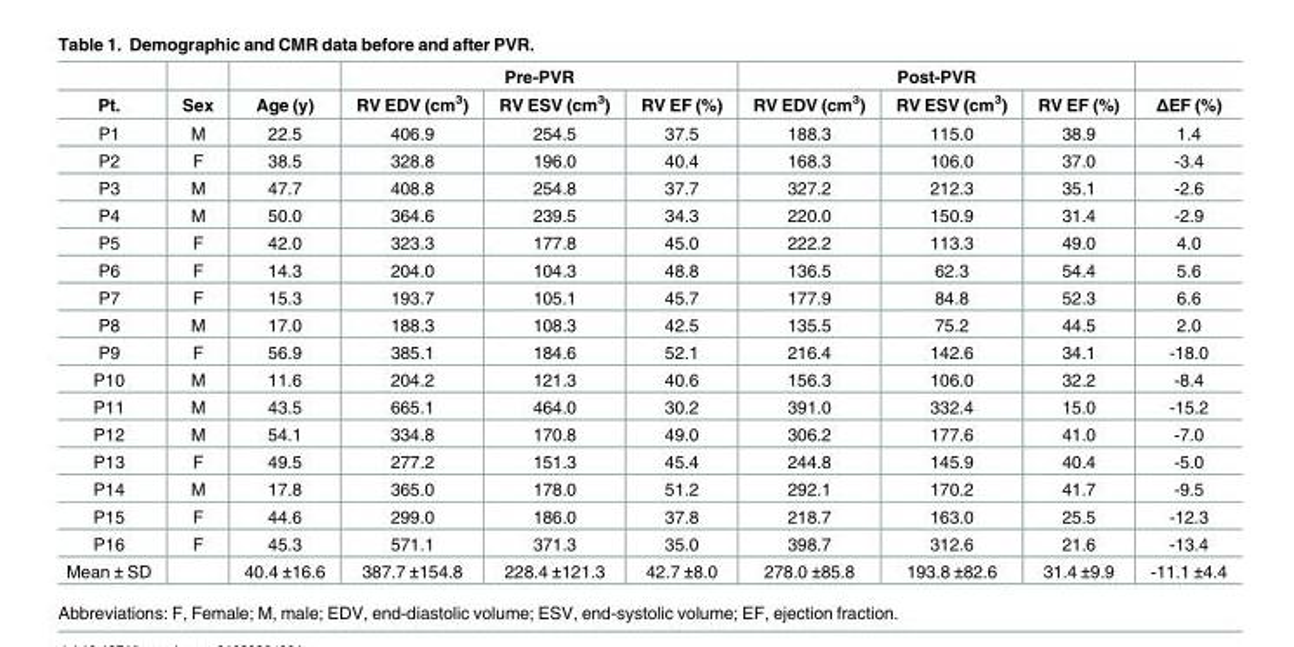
<table><thead><tr><td rowspan="2">Pt.</td><td rowspan="2">Sex</td><td rowspan="2">Age (y)</td><td colspan="3">Pre-PVR</td><td colspan="3">Post-PVR</td><td rowspan="2">ΔEF (%)</td></tr><tr><td>RV EDV (cm<sup>3</sup>)</td><td>RV ESV (cm<sup>3</sup>)</td><td>RV EF (%)</td><td>RV EDV (cm<sup>3</sup>)</td><td>RV ESV (cm<sup>3</sup>)</td><td>RV EF (%)</td></tr></thead><tbody><tr><td>P1</td><td>M</td><td>22.5</td><td>406.9</td><td>254.5</td><td>37.5</td><td>188.3</td><td>115.0</td><td>38.9</td><td>1.4</td></tr><tr><td>P2</td><td>F</td><td>38.5</td><td>328.8</td><td>196.0</td><td>40.4</td><td>168.3</td><td>106.0</td><td>37.0</td><td>-3.4</td></tr><tr><td>P3</td><td>M</td><td>47.7</td><td>408.8</td><td>254.8</td><td>37.7</td><td>327.2</td><td>212.3</td><td>35.1</td><td>-2.6</td></tr><tr><td>P4</td><td>M</td><td>50.0</td><td>364.6</td><td>239.5</td><td>34.3</td><td>220.0</td><td>150.9</td><td>31.4</td><td>-2.9</td></tr><tr><td>P5</td><td>F</td><td>42.0</td><td>323.3</td><td>177.8</td><td>45.0</td><td>222.2</td><td>113.3</td><td>49.0</td><td>4.0</td></tr><tr><td>P6</td><td>F</td><td>14.3</td><td>204.0</td><td>104.3</td><td>48.8</td><td>136.5</td><td>62.3</td><td>54.4</td><td>5.6</td></tr><tr><td>P7</td><td>F</td><td>15.3</td><td>193.7</td><td>105.1</td><td>45.7</td><td>177.9</td><td>84.8</td><td>52.3</td><td>6.6</td></tr><tr><td>P8</td><td>M</td><td>17.0</td><td>188.3</td><td>108.3</td><td>42.5</td><td>135.5</td><td>75.2</td><td>44.5</td><td>2.0</td></tr><tr><td>P9</td><td>F</td><td>56.9</td><td>385.1</td><td>184.6</td><td>52.1</td><td>216.4</td><td>142.6</td><td>34.1</td><td>-18.0</td></tr><tr><td>P10</td><td>M</td><td>11.6</td><td>204.2</td><td>121.3</td><td>40.6</td><td>156.3</td><td>106.0</td><td>32.2</td><td>-8.4</td></tr><tr><td>P11</td><td>M</td><td>43.5</td><td>665.1</td><td>464.0</td><td>30.2</td><td>391.0</td><td>332.4</td><td>15.0</td><td>-15.2</td></tr><tr><td>P12</td><td>M</td><td>54.1</td><td>334.8</td><td>170.8</td><td>49.0</td><td>306.2</td><td>177.6</td><td>41.0</td><td>-7.0</td></tr><tr><td>P13</td><td>F</td><td>49.5</td><td>277.2</td><td>151.3</td><td>45.4</td><td>244.8</td><td>145.9</td><td>40.4</td><td>-5.0</td></tr><tr><td>P14</td><td>M</td><td>17.8</td><td>365.0</td><td>178.0</td><td>51.2</td><td>292.1</td><td>170.2</td><td>41.7</td><td>-9.5</td></tr><tr><td>P15</td><td>F</td><td>44.6</td><td>299.0</td><td>186.0</td><td>37.8</td><td>218.7</td><td>163.0</td><td>25.5</td><td>-12.3</td></tr><tr><td>P16</td><td>F</td><td>45.3</td><td>571.1</td><td>371.3</td><td>35.0</td><td>398.7</td><td>312.6</td><td>21.6</td><td>-13.4</td></tr><tr><td>Mean ± SD</td><td></td><td>40.4 ±16.6</td><td>387.7 ±154.8</td><td>228.4 ±121.3</td><td>42.7 ±8.0</td><td>278.0 ±85.8</td><td>193.8 ±82.6</td><td>31.4 ±9.9</td><td>-11.1 ±4.4</td></tr></tbody></table>